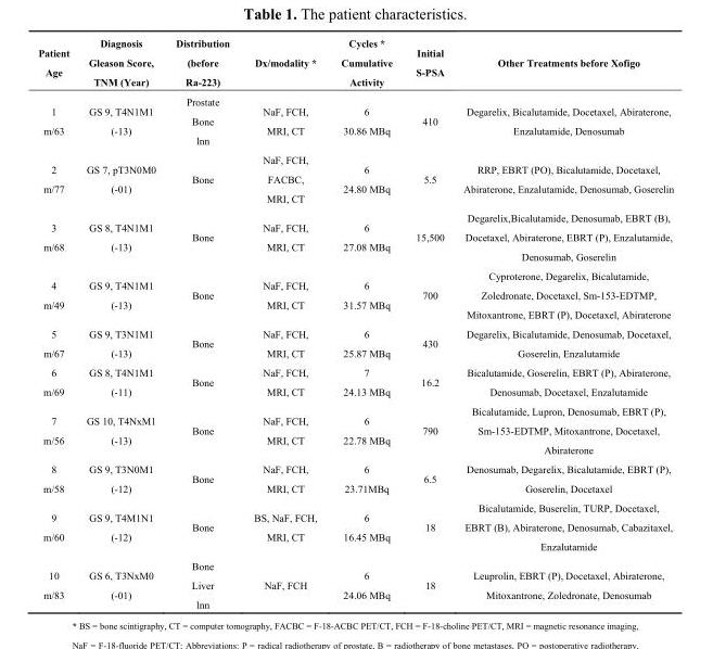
<table><thead><tr><td>Patient Age</td><td>Diagnosis Gleason Score, TNM (Year)</td><td>Distribution (before Ra-223)</td><td>Dx/modality *</td><td>Cycles * Cumulative Activity</td><td>Initial S-PSA</td><td>Other Treatments before Xofigo</td></tr></thead><tbody><tr><td>1 m/63</td><td>GS 9, T4N1M1 (-13)</td><td>Prostate Bone lnn</td><td>NaF, FCH, MRI, CT</td><td>6 30.86 MBq</td><td>410</td><td>Degarelix, Bicalutamide, Docetaxel, Abiraterone, Enzalutamide, Denosumab</td></tr><tr><td>2 m/77</td><td>GS 7, pT3N0M0 (-01)</td><td>Bone</td><td>NaF, FCH, FACBC, MRI, CT</td><td>6 24.80 MBq</td><td>5.5</td><td>RRP, EBRT (PO), Bicalutamide, Docetaxel, Abiraterone, Enzalutamide, Denosumab, Goserelin</td></tr><tr><td>3 m/68</td><td>GS 8, T4N1M1 (-13)</td><td>Bone</td><td>NaF, FCH, MRI, CT</td><td>6 27.08 MBq</td><td>15,500</td><td>Degarelix,Bicalutamide, Denosumab, EBRT (B), Docetaxel, Abiraterone, EBRT (P), Enzalutamide, Denosumab, Goserelin</td></tr><tr><td>4 m/49</td><td>GS 9, T4N1M1 (-13)</td><td>Bone</td><td>NaF, FCH, MRI, CT</td><td>6 31.57 MBq</td><td>700</td><td>Cyproterone, Degarelix, Bicalutamide, Zoledronate, Docetaxel, Sm-153-EDTMP, Mitoxantrone, EBRT (P), Docetaxel, Abiraterone</td></tr><tr><td>5 m/67</td><td>GS 9, T3N1M1 (-13)</td><td>Bone</td><td>NaF, FCH, MRI, CT</td><td>6 25.87 MBq</td><td>430</td><td>Degarelix, Bicalutamide, Denosumab, Docetaxel, Goserelin, Enzalutamide</td></tr><tr><td>6 m/69</td><td>GS 8, T4N1M1 (-11)</td><td>Bone</td><td>NaF, FCH, MRI, CT</td><td>7 24.13 MBq</td><td>16.2</td><td>Bicalutamide, Goserelin, EBRT (P), Abiraterone, Denosumab, Docetaxel, Enzalutamide</td></tr><tr><td>7 m/56</td><td>GS 10, T4NxM1 (-13)</td><td>Bone</td><td>NaF, FCH, MRI, CT</td><td>6 22.78 MBq</td><td>790</td><td>Bicalutamide, Lupron, Denosumab, EBRT (P), Sm-153-EDTMP, Mitoxantrone, Docetaxel, Abiraterone</td></tr><tr><td>8 m/58</td><td>GS 9, T3N0M1 (-12)</td><td>Bone</td><td>NaF, FCH, MRI, CT</td><td>6 23.71MBq</td><td>6.5</td><td>Denosumab, Degarelix, Bicalutamide, EBRT (P), Goserelin, Docetaxel</td></tr><tr><td>9 m/60</td><td>GS 9, T4M1N1 (-12)</td><td>Bone</td><td>BS, NaF, FCH, MRI, CT</td><td>6 16.45 MBq</td><td>18</td><td>Bicalutamide, Buserelin, TURP, Docetaxel, EBRT (B), Abiraterone, Denosumab, Cabazitaxel, Enzalutamide</td></tr><tr><td>10 m/83</td><td>GS 6, T3NxM0 (-01)</td><td>Bone Liver lnn</td><td>NaF, FCH</td><td>6 24.06 MBq</td><td>18</td><td>Leuprolin, EBRT (P), Docetaxel, Abiraterone, Mitoxantrone, Zoledronate, Denosumab</td></tr></tbody></table>